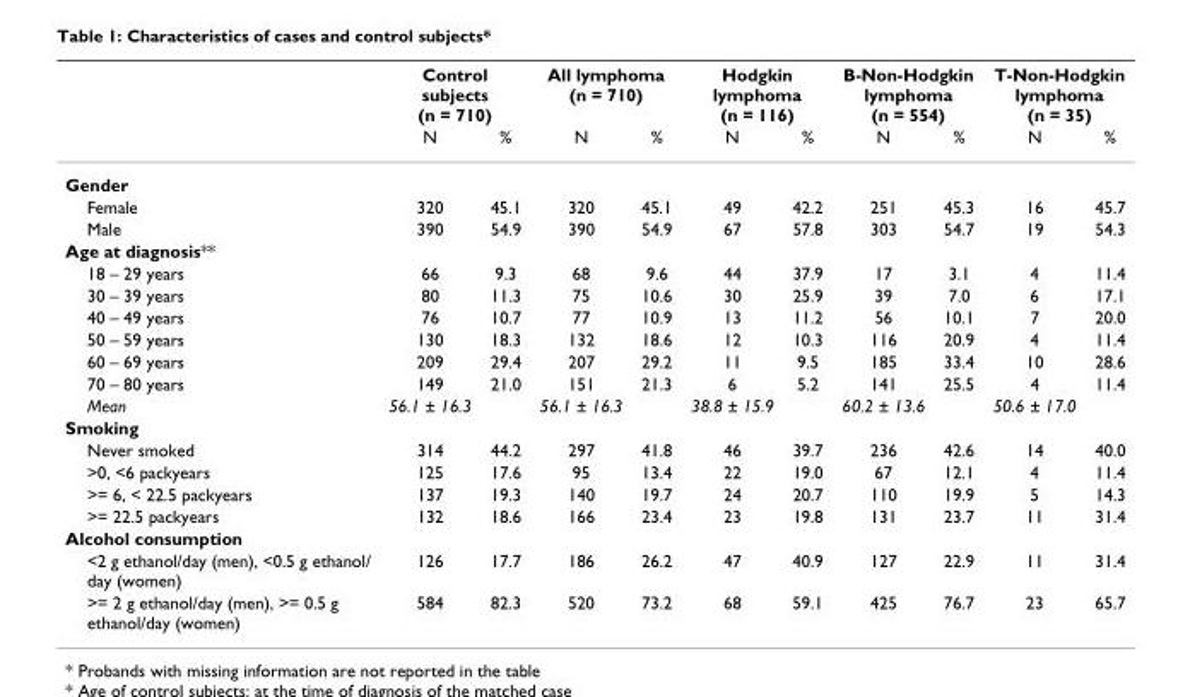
<table><thead><tr><td rowspan="2"></td><td colspan="2">Control subjects (n = 710)</td><td colspan="2">All lymphoma (n = 710)</td><td colspan="2">Hodgkin lymphoma (n = 116)</td><td colspan="2">B-Non-Hodgkin lymphoma (n = 554)</td><td colspan="2">T-Non-Hodgkin lymphoma (n = 35)</td></tr><tr><td>N</td><td>%</td><td>N</td><td>%</td><td>N</td><td>%</td><td>N</td><td>%</td><td>N</td><td>%</td></tr></thead><tbody><tr><td colspan="11">Gender</td></tr><tr><td>Female</td><td>320</td><td>45.1</td><td>320</td><td>45.1</td><td>49</td><td>42.2</td><td>251</td><td>45.3</td><td>16</td><td>45.7</td></tr><tr><td>Male</td><td>390</td><td>54.9</td><td>390</td><td>54.9</td><td>67</td><td>57.8</td><td>303</td><td>54.7</td><td>19</td><td>54.3</td></tr><tr><td colspan="11">Age at diagnosis**</td></tr><tr><td>18 – 29 years</td><td>66</td><td>9.3</td><td>68</td><td>9.6</td><td>44</td><td>37.9</td><td>17</td><td>3.1</td><td>4</td><td>11.4</td></tr><tr><td>30 – 39 years</td><td>80</td><td>11.3</td><td>75</td><td>10.6</td><td>30</td><td>25.9</td><td>39</td><td>7.0</td><td>6</td><td>17.1</td></tr><tr><td>40 – 49 years</td><td>76</td><td>10.7</td><td>77</td><td>10.9</td><td>13</td><td>11.2</td><td>56</td><td>10.1</td><td>7</td><td>20.0</td></tr><tr><td>50 – 59 years</td><td>130</td><td>18.3</td><td>132</td><td>18.6</td><td>12</td><td>10.3</td><td>116</td><td>20.9</td><td>4</td><td>11.4</td></tr><tr><td>60 – 69 years</td><td>209</td><td>29.4</td><td>207</td><td>29.2</td><td>11</td><td>9.5</td><td>185</td><td>33.4</td><td>10</td><td>28.6</td></tr><tr><td>70 – 80 years</td><td>149</td><td>21.0</td><td>151</td><td>21.3</td><td>6</td><td>5.2</td><td>141</td><td>25.5</td><td>4</td><td>11.4</td></tr><tr><td>Mean</td><td>56.1 ± 16.3</td><td></td><td>56.1 ± 16.3</td><td></td><td>38.8 ± 15.9</td><td></td><td>60.2 ± 13.6</td><td></td><td>50.6 ± 17.0</td><td></td></tr><tr><td colspan="11">Smoking</td></tr><tr><td>Never smoked</td><td>314</td><td>44.2</td><td>297</td><td>41.8</td><td>46</td><td>39.7</td><td>236</td><td>42.6</td><td>14</td><td>40.0</td></tr><tr><td>&gt;0, &lt;6 packyears</td><td>125</td><td>17.6</td><td>95</td><td>13.4</td><td>22</td><td>19.0</td><td>67</td><td>12.1</td><td>4</td><td>11.4</td></tr><tr><td>&gt;= 6, &lt; 22.5 packyears</td><td>137</td><td>19.3</td><td>140</td><td>19.7</td><td>24</td><td>20.7</td><td>110</td><td>19.9</td><td>5</td><td>14.3</td></tr><tr><td>&gt;= 22.5 packyears</td><td>132</td><td>18.6</td><td>166</td><td>23.4</td><td>23</td><td>19.8</td><td>131</td><td>23.7</td><td>11</td><td>31.4</td></tr><tr><td colspan="11">Alcohol consumption</td></tr><tr><td>&lt;2 g ethanol/day (men), &lt;0.5 g ethanol/ day (women)</td><td>126</td><td>17.7</td><td>186</td><td>26.2</td><td>47</td><td>40.9</td><td>127</td><td>22.9</td><td>11</td><td>31.4</td></tr><tr><td>&gt;= 2 g ethanol/day (men), &gt;= 0.5 g ethanol/day (women)</td><td>584</td><td>82.3</td><td>520</td><td>73.2</td><td>68</td><td>59.1</td><td>425</td><td>76.7</td><td>23</td><td>65.7</td></tr></tbody></table>